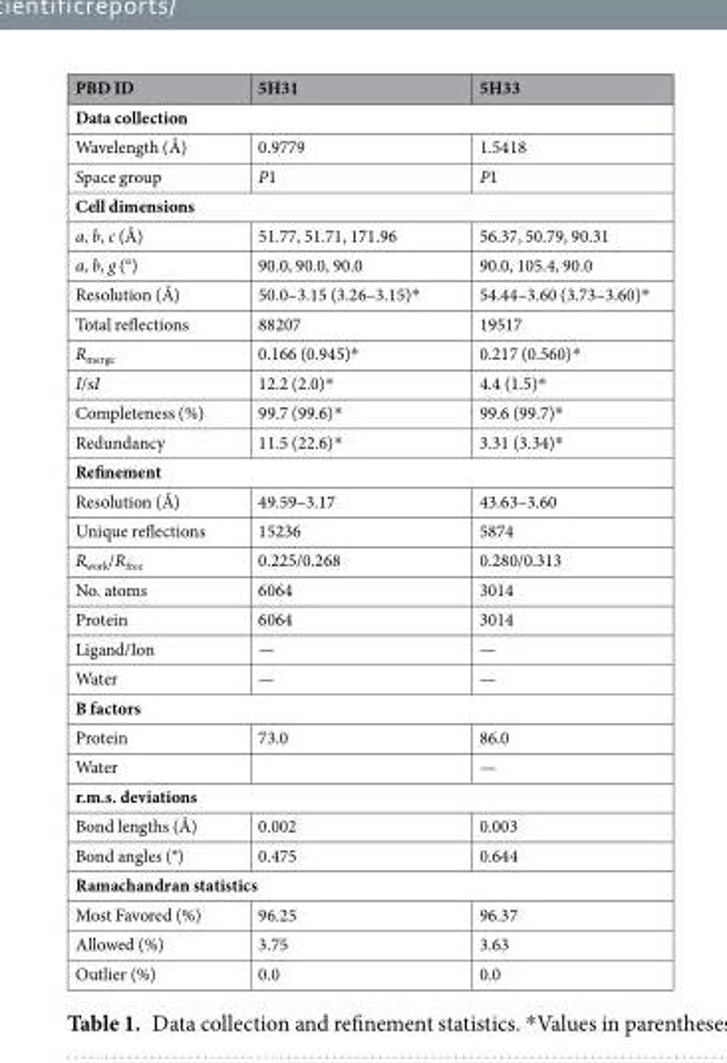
<table><thead><tr><td>PBD ID</td><td>5H31</td><td>5H33</td></tr></thead><tbody><tr><td colspan="3">Data collection</td></tr><tr><td>Wavelength (Å)</td><td>0.9779</td><td>1.5418</td></tr><tr><td>Space group</td><td>P1</td><td>P1</td></tr><tr><td colspan="3">Cell dimensions</td></tr><tr><td>a, b, c (Å)</td><td>51.77, 51.71, 171.96</td><td>56.37, 50.79, 90.31</td></tr><tr><td>a, b, g (°)</td><td>90.0, 90.0, 90.0</td><td>90.0, 105.4, 90.0</td></tr><tr><td>Resolution (Å)</td><td>50.0–3.15 (3.26–3.15)*</td><td>54.44–3.60 (3.73–3.60)*</td></tr><tr><td>Total reflections</td><td>88207</td><td>19517</td></tr><tr><td>R<sub>merge</sub></td><td>0.166 (0.945)*</td><td>0.217 (0.560)*</td></tr><tr><td>I/sI</td><td>12.2 (2.0)*</td><td>4.4 (1.5)*</td></tr><tr><td>Completeness (%)</td><td>99.7 (99.6)*</td><td>99.6 (99.7)*</td></tr><tr><td>Redundancy</td><td>11.5 (22.6)*</td><td>3.31 (3.34)*</td></tr><tr><td colspan="3">Refinement</td></tr><tr><td>Resolution (Å)</td><td>49.59–3.17</td><td>43.63–3.60</td></tr><tr><td>Unique reflections</td><td>15236</td><td>5874</td></tr><tr><td>R<sub>work</sub>/R<sub>free</sub></td><td>0.225/0.268</td><td>0.280/0.313</td></tr><tr><td>No. atoms</td><td>6064</td><td>3014</td></tr><tr><td>Protein</td><td>6064</td><td>3014</td></tr><tr><td>Ligand/Ion</td><td>—</td><td>—</td></tr><tr><td>Water</td><td>—</td><td>—</td></tr><tr><td colspan="3">B factors</td></tr><tr><td>Protein</td><td>73.0</td><td>86.0</td></tr><tr><td>Water</td><td></td><td>—</td></tr><tr><td colspan="3">r.m.s. deviations</td></tr><tr><td>Bond lengths (Å)</td><td>0.002</td><td>0.003</td></tr><tr><td>Bond angles (°)</td><td>0.475</td><td>0.644</td></tr><tr><td colspan="3">Ramachandran statistics</td></tr><tr><td>Most Favored (%)</td><td>96.25</td><td>96.37</td></tr><tr><td>Allowed (%)</td><td>3.75</td><td>3.63</td></tr><tr><td>Outlier (%)</td><td>0.0</td><td>0.0</td></tr></tbody></table>